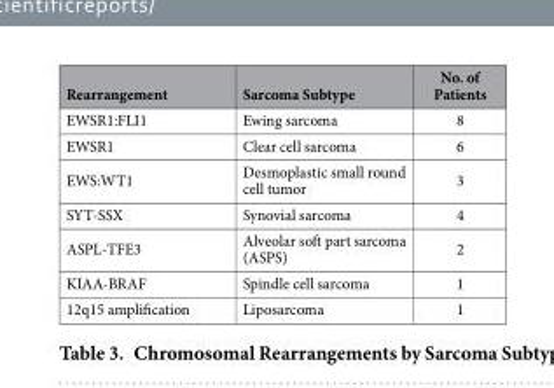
<table><thead><tr><td>Rearrangement</td><td>Sarcoma Subtype</td><td>No. of Patients</td></tr></thead><tbody><tr><td>EWSR1:FLI1</td><td>Ewing sarcoma</td><td>8</td></tr><tr><td>EWSR1</td><td>Clear cell sarcoma</td><td>6</td></tr><tr><td>EWS:WT1</td><td>Desmoplastic small round cell tumor</td><td>3</td></tr><tr><td>SYT-SSX</td><td>Synovial sarcoma</td><td>4</td></tr><tr><td>ASPL-TFE3</td><td>Alveolar soft part sarcoma (ASPS)</td><td>2</td></tr><tr><td>KIAA-BRAF</td><td>Spindle cell sarcoma</td><td>1</td></tr><tr><td>12q15 amplification</td><td>Liposarcoma</td><td>1</td></tr></tbody></table>